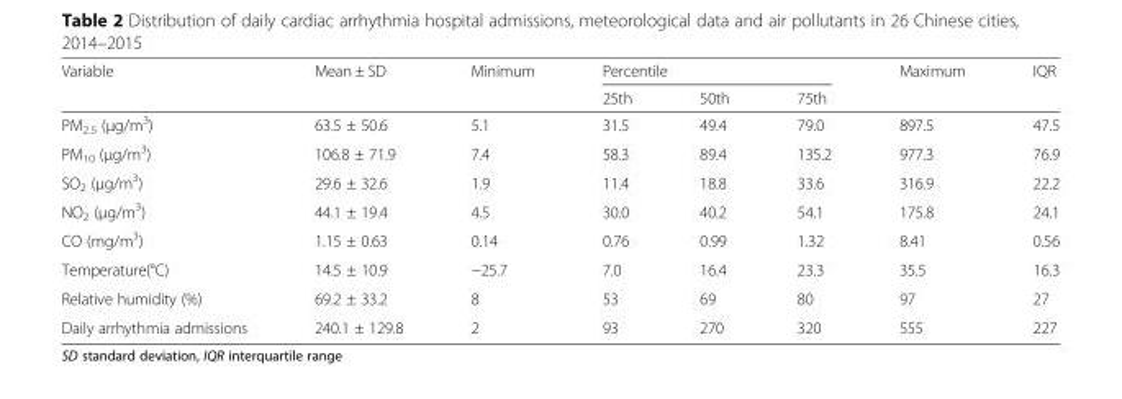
<table><thead><tr><td rowspan="2">Variable</td><td rowspan="2">Mean ± SD</td><td rowspan="2">Minimum</td><td colspan="3">Percentile</td><td rowspan="2">Maximum</td><td rowspan="2">IQR</td></tr><tr><td>25th</td><td>50th</td><td>75th</td></tr></thead><tbody><tr><td>PM<sub>2.5</sub> (μg/m<sup>3</sup>)</td><td>63.5 ± 50.6</td><td>5.1</td><td>31.5</td><td>49.4</td><td>79.0</td><td>897.5</td><td>47.5</td></tr><tr><td>PM<sub>10</sub> (μg/m<sup>3</sup>)</td><td>106.8 ± 71.9</td><td>7.4</td><td>58.3</td><td>89.4</td><td>135.2</td><td>977.3</td><td>76.9</td></tr><tr><td>SO<sub>2</sub> (μg/m<sup>3</sup>)</td><td>29.6 ± 32.6</td><td>1.9</td><td>11.4</td><td>18.8</td><td>33.6</td><td>316.9</td><td>22.2</td></tr><tr><td>NO<sub>2</sub> (μg/m<sup>3</sup>)</td><td>44.1 ± 19.4</td><td>4.5</td><td>30.0</td><td>40.2</td><td>54.1</td><td>175.8</td><td>24.1</td></tr><tr><td>CO (mg/m<sup>3</sup>)</td><td>1.15 ± 0.63</td><td>0.14</td><td>0.76</td><td>0.99</td><td>1.32</td><td>8.41</td><td>0.56</td></tr><tr><td>Temperature(°C)</td><td>14.5 ± 10.9</td><td>−25.7</td><td>7.0</td><td>16.4</td><td>23.3</td><td>35.5</td><td>16.3</td></tr><tr><td>Relative humidity (%)</td><td>69.2 ± 33.2</td><td>8</td><td>53</td><td>69</td><td>80</td><td>97</td><td>27</td></tr><tr><td>Daily arrhythmia admissions</td><td>240.1 ± 129.8</td><td>2</td><td>93</td><td>270</td><td>320</td><td>555</td><td>227</td></tr></tbody></table>